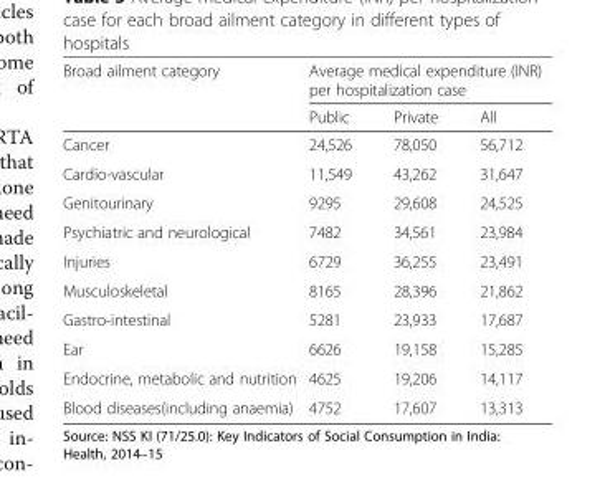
<table><thead><tr><td rowspan="2">Broad ailment category</td><td colspan="3">Average medical expenditure (INR) per hospitalization case</td></tr><tr><td>Public</td><td>Private</td><td>All</td></tr></thead><tbody><tr><td>Cancer</td><td>24,526</td><td>78,050</td><td>56,712</td></tr><tr><td>Cardio-vascular</td><td>11,549</td><td>43,262</td><td>31,647</td></tr><tr><td>Genitourinary</td><td>9295</td><td>29,608</td><td>24,525</td></tr><tr><td>Psychiatric and neurological</td><td>7482</td><td>34,561</td><td>23,984</td></tr><tr><td>Injuries</td><td>6729</td><td>36,255</td><td>23,491</td></tr><tr><td>Musculoskeletal</td><td>8165</td><td>28,396</td><td>21,862</td></tr><tr><td>Gastro-intestinal</td><td>5281</td><td>23,933</td><td>17,687</td></tr><tr><td>Ear</td><td>6626</td><td>19,158</td><td>15,285</td></tr><tr><td>Endocrine, metabolic and nutrition</td><td>4625</td><td>19,206</td><td>14,117</td></tr><tr><td>Blood diseases(including anaemia)</td><td>4752</td><td>17,607</td><td>13,313</td></tr></tbody></table>